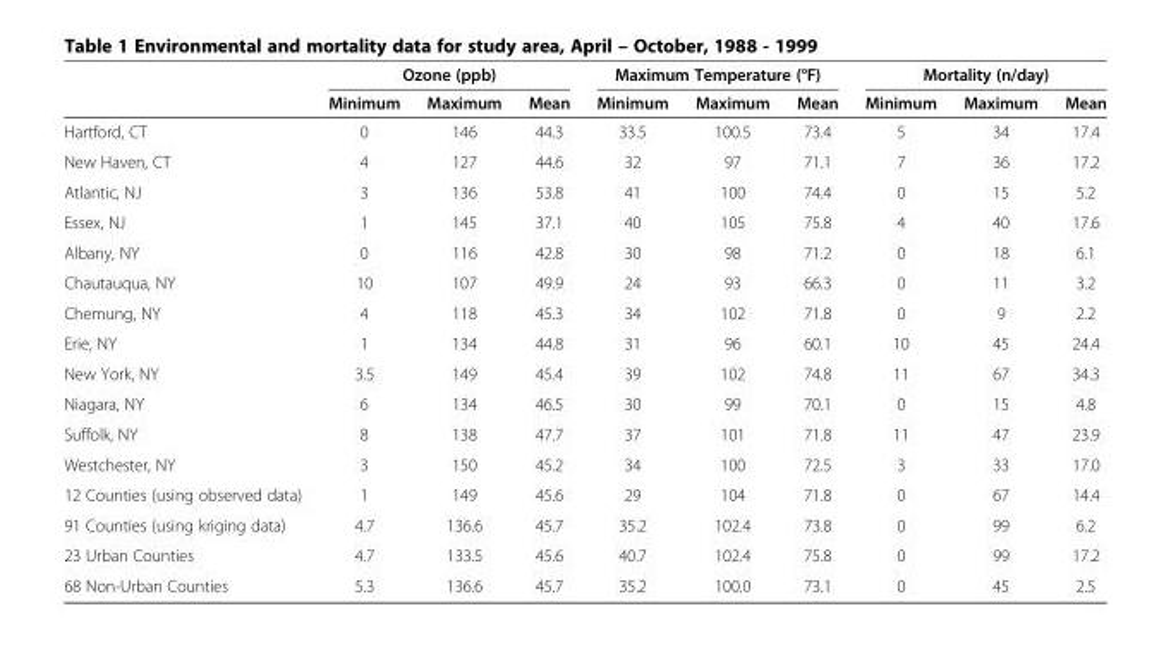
<table><thead><tr><td rowspan="2"></td><td colspan="3">Ozone (ppb)</td><td colspan="3">Maximum Temperature (°F)</td><td colspan="3">Mortality (n/day)</td></tr><tr><td>Minimum</td><td>Maximum</td><td>Mean</td><td>Minimum</td><td>Maximum</td><td>Mean</td><td>Minimum</td><td>Maximum</td><td>Mean</td></tr></thead><tbody><tr><td>Hartford, CT</td><td>0</td><td>146</td><td>44.3</td><td>33.5</td><td>100.5</td><td>73.4</td><td>5</td><td>34</td><td>17.4</td></tr><tr><td>New Haven, CT</td><td>4</td><td>127</td><td>44.6</td><td>32</td><td>97</td><td>71.1</td><td>7</td><td>36</td><td>17.2</td></tr><tr><td>Atlantic, NJ</td><td>3</td><td>136</td><td>53.8</td><td>41</td><td>100</td><td>74.4</td><td>0</td><td>15</td><td>5.2</td></tr><tr><td>Essex, NJ</td><td>1</td><td>145</td><td>37.1</td><td>40</td><td>105</td><td>75.8</td><td>4</td><td>40</td><td>17.6</td></tr><tr><td>Albany, NY</td><td>0</td><td>116</td><td>42.8</td><td>30</td><td>98</td><td>71.2</td><td>0</td><td>18</td><td>6.1</td></tr><tr><td>Chautauqua, NY</td><td>10</td><td>107</td><td>49.9</td><td>24</td><td>93</td><td>66.3</td><td>0</td><td>11</td><td>3.2</td></tr><tr><td>Chemung, NY</td><td>4</td><td>118</td><td>45.3</td><td>34</td><td>102</td><td>71.8</td><td>0</td><td>9</td><td>2.2</td></tr><tr><td>Erie, NY</td><td>1</td><td>134</td><td>44.8</td><td>31</td><td>96</td><td>60.1</td><td>10</td><td>45</td><td>24.4</td></tr><tr><td>New York, NY</td><td>3.5</td><td>149</td><td>45.4</td><td>39</td><td>102</td><td>74.8</td><td>11</td><td>67</td><td>34.3</td></tr><tr><td>Niagara, NY</td><td>6</td><td>134</td><td>46.5</td><td>30</td><td>99</td><td>70.1</td><td>0</td><td>15</td><td>4.8</td></tr><tr><td>Suffolk, NY</td><td>8</td><td>138</td><td>47.7</td><td>37</td><td>101</td><td>71.8</td><td>11</td><td>47</td><td>23.9</td></tr><tr><td>Westchester, NY</td><td>3</td><td>150</td><td>45.2</td><td>34</td><td>100</td><td>72.5</td><td>3</td><td>33</td><td>17.0</td></tr><tr><td>12 Counties (using observed data)</td><td>1</td><td>149</td><td>45.6</td><td>29</td><td>104</td><td>71.8</td><td>0</td><td>67</td><td>14.4</td></tr><tr><td>91 Counties (using kriging data)</td><td>4.7</td><td>136.6</td><td>45.7</td><td>35.2</td><td>102.4</td><td>73.8</td><td>0</td><td>99</td><td>6.2</td></tr><tr><td>23 Urban Counties</td><td>4.7</td><td>133.5</td><td>45.6</td><td>40.7</td><td>102.4</td><td>75.8</td><td>0</td><td>99</td><td>17.2</td></tr><tr><td>68 Non-Urban Counties</td><td>5.3</td><td>136.6</td><td>45.7</td><td>35.2</td><td>100.0</td><td>73.1</td><td>0</td><td>45</td><td>2.5</td></tr></tbody></table>